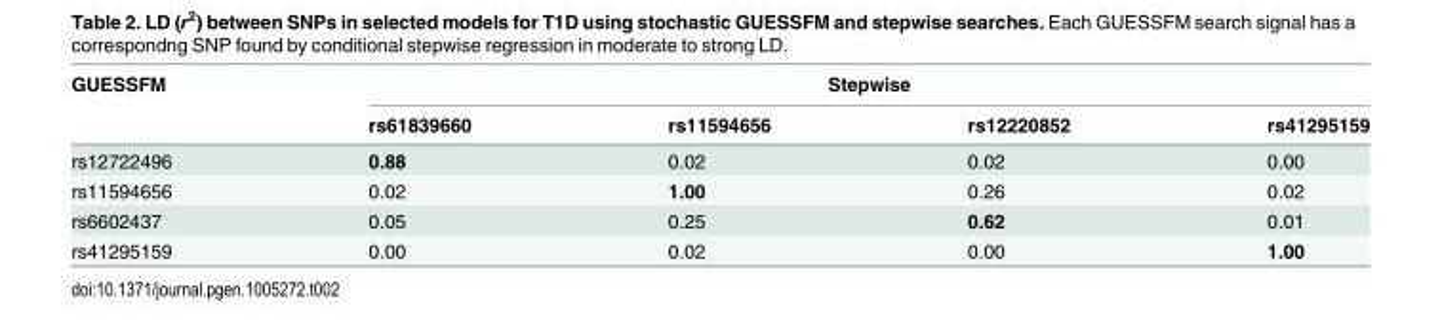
<table><thead><tr><td rowspan="2">GUESSFM</td><td colspan="4">Stepwise</td></tr><tr><td>rs61839660</td><td>rs11594656</td><td>rs12220852</td><td>rs41295159</td></tr></thead><tbody><tr><td>rs12722496</td><td>0.88</td><td>0.02</td><td>0.02</td><td>0.00</td></tr><tr><td>rs11594656</td><td>0.02</td><td>1.00</td><td>0.26</td><td>0.02</td></tr><tr><td>rs6602437</td><td>0.05</td><td>0.25</td><td>0.62</td><td>0.01</td></tr><tr><td>rs41295159</td><td>0.00</td><td>0.02</td><td>0.00</td><td>1.00</td></tr></tbody></table>